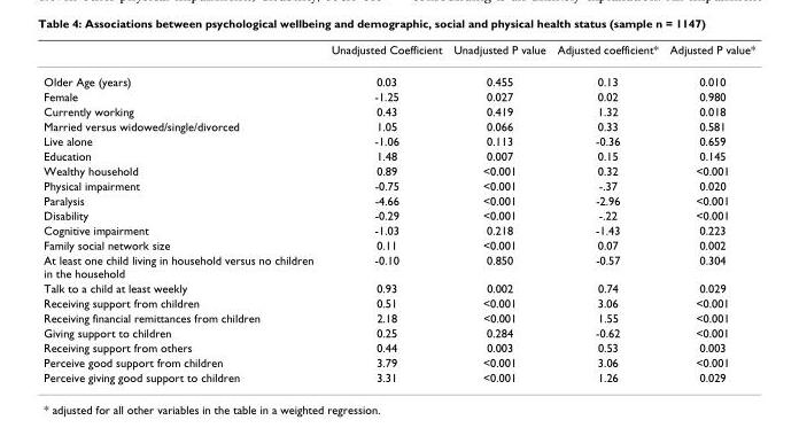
<table><thead><tr><td></td><td>Unadjusted Coefficient</td><td>Unadjusted P value</td><td>Adjusted coefficient*</td><td>Adjusted P value*</td></tr></thead><tbody><tr><td>Older Age (years)</td><td>0.03</td><td>0.455</td><td>0.13</td><td>0.010</td></tr><tr><td>Female</td><td>-1.25</td><td>0.027</td><td>0.02</td><td>0.980</td></tr><tr><td>Currently working</td><td>0.43</td><td>0.419</td><td>1.32</td><td>0.018</td></tr><tr><td>Married versus widowed/single/divorced</td><td>1.05</td><td>0.066</td><td>0.33</td><td>0.581</td></tr><tr><td>Live alone</td><td>-1.06</td><td>0.113</td><td>-0.36</td><td>0.659</td></tr><tr><td>Education</td><td>1.48</td><td>0.007</td><td>0.15</td><td>0.145</td></tr><tr><td>Wealthy household</td><td>0.89</td><td>&lt;0.001</td><td>0.32</td><td>&lt;0.001</td></tr><tr><td>Physical impairment</td><td>-0.75</td><td>&lt;0.001</td><td>-.37</td><td>0.020</td></tr><tr><td>Paralysis</td><td>-4.66</td><td>&lt;0.001</td><td>-2.96</td><td>&lt;0.001</td></tr><tr><td>Disability</td><td>-0.29</td><td>&lt;0.001</td><td>-.22</td><td>&lt;0.001</td></tr><tr><td>Cognitive impairment</td><td>-1.03</td><td>0.218</td><td>-1.43</td><td>0.223</td></tr><tr><td>Family social network size</td><td>0.11</td><td>&lt;0.001</td><td>0.07</td><td>0.002</td></tr><tr><td>At least one child living in household versus no children in the household</td><td>-0.10</td><td>0.850</td><td>-0.57</td><td>0.304</td></tr><tr><td>Talk to a child at least weekly</td><td>0.93</td><td>0.002</td><td>0.74</td><td>0.029</td></tr><tr><td>Receiving support from children</td><td>0.51</td><td>&lt;0.001</td><td>3.06</td><td>&lt;0.001</td></tr><tr><td>Receiving financial remittances from children</td><td>2.18</td><td>&lt;0.001</td><td>1.55</td><td>&lt;0.001</td></tr><tr><td>Giving support to children</td><td>0.25</td><td>0.284</td><td>-0.62</td><td>&lt;0.001</td></tr><tr><td>Receiving support from others</td><td>0.44</td><td>0.003</td><td>0.53</td><td>0.003</td></tr><tr><td>Perceive good support from children</td><td>3.79</td><td>&lt;0.001</td><td>3.06</td><td>&lt;0.001</td></tr><tr><td>Perceive giving good support to children</td><td>3.31</td><td>&lt;0.001</td><td>1.26</td><td>0.029</td></tr></tbody></table>